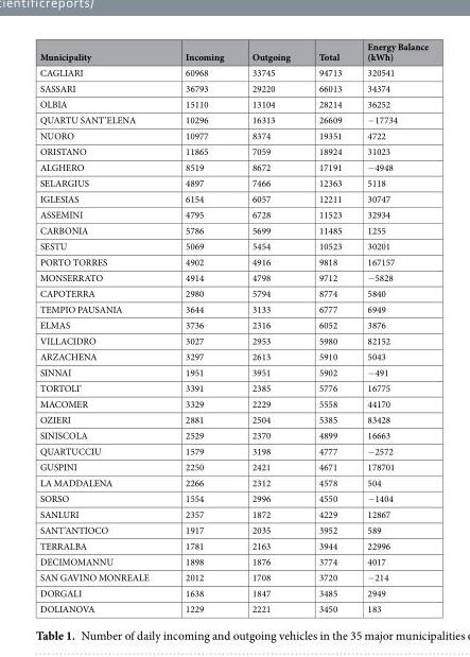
<table><thead><tr><td>Municipality</td><td>Incoming</td><td>Outgoing</td><td>Total</td><td>Energy Balance (kWh)</td></tr></thead><tbody><tr><td>CAGLIARI</td><td>60968</td><td>33745</td><td>94713</td><td>320541</td></tr><tr><td>SASSARI</td><td>36793</td><td>29220</td><td>66013</td><td>34374</td></tr><tr><td>OLBIA</td><td>15110</td><td>13104</td><td>28214</td><td>36252</td></tr><tr><td>QUARTU SANT’ELENA</td><td>10296</td><td>16313</td><td>26609</td><td>−17734</td></tr><tr><td>NUORO</td><td>10977</td><td>8374</td><td>19351</td><td>4722</td></tr><tr><td>ORISTANO</td><td>11865</td><td>7059</td><td>18924</td><td>31023</td></tr><tr><td>ALGHERO</td><td>8519</td><td>8672</td><td>17191</td><td>−4948</td></tr><tr><td>SELARGIUS</td><td>4897</td><td>7466</td><td>12363</td><td>5118</td></tr><tr><td>IGLESIAS</td><td>6154</td><td>6057</td><td>12211</td><td>30747</td></tr><tr><td>ASSEMINI</td><td>4795</td><td>6728</td><td>11523</td><td>32934</td></tr><tr><td>CARBONIA</td><td>5786</td><td>5699</td><td>11485</td><td>1255</td></tr><tr><td>SESTU</td><td>5069</td><td>5454</td><td>10523</td><td>30201</td></tr><tr><td>PORTO TORRES</td><td>4902</td><td>4916</td><td>9818</td><td>167157</td></tr><tr><td>MONSERRATO</td><td>4914</td><td>4798</td><td>9712</td><td>−5828</td></tr><tr><td>CAPOTERRA</td><td>2980</td><td>5794</td><td>8774</td><td>5840</td></tr><tr><td>TEMPIO PAUSANIA</td><td>3644</td><td>3133</td><td>6777</td><td>6949</td></tr><tr><td>ELMAS</td><td>3736</td><td>2316</td><td>6052</td><td>3876</td></tr><tr><td>VILLACIDRO</td><td>3027</td><td>2953</td><td>5980</td><td>82152</td></tr><tr><td>ARZACHENA</td><td>3297</td><td>2613</td><td>5910</td><td>5043</td></tr><tr><td>SINNAI</td><td>1951</td><td>3951</td><td>5902</td><td>−491</td></tr><tr><td>TORTOLI’</td><td>3391</td><td>2385</td><td>5776</td><td>16775</td></tr><tr><td>MACOMER</td><td>3329</td><td>2229</td><td>5558</td><td>44170</td></tr><tr><td>OZIERI</td><td>2881</td><td>2504</td><td>5385</td><td>83428</td></tr><tr><td>SINISCOLA</td><td>2529</td><td>2370</td><td>4899</td><td>16663</td></tr><tr><td>QUARTUCCIU</td><td>1579</td><td>3198</td><td>4777</td><td>−2572</td></tr><tr><td>GUSPINI</td><td>2250</td><td>2421</td><td>4671</td><td>178701</td></tr><tr><td>LA MADDALENA</td><td>2266</td><td>2312</td><td>4578</td><td>504</td></tr><tr><td>SORSO</td><td>1554</td><td>2996</td><td>4550</td><td>−1404</td></tr><tr><td>SANLURI</td><td>2357</td><td>1872</td><td>4229</td><td>12867</td></tr><tr><td>SANT’ANTIOCO</td><td>1917</td><td>2035</td><td>3952</td><td>589</td></tr><tr><td>TERRALBA</td><td>1781</td><td>2163</td><td>3944</td><td>22996</td></tr><tr><td>DECIMOMANNU</td><td>1898</td><td>1876</td><td>3774</td><td>4017</td></tr><tr><td>SAN GAVINO MONREALE</td><td>2012</td><td>1708</td><td>3720</td><td>−214</td></tr><tr><td>DORGALI</td><td>1638</td><td>1847</td><td>3485</td><td>2949</td></tr><tr><td>DOLIANOVA</td><td>1229</td><td>2221</td><td>3450</td><td>183</td></tr></tbody></table>